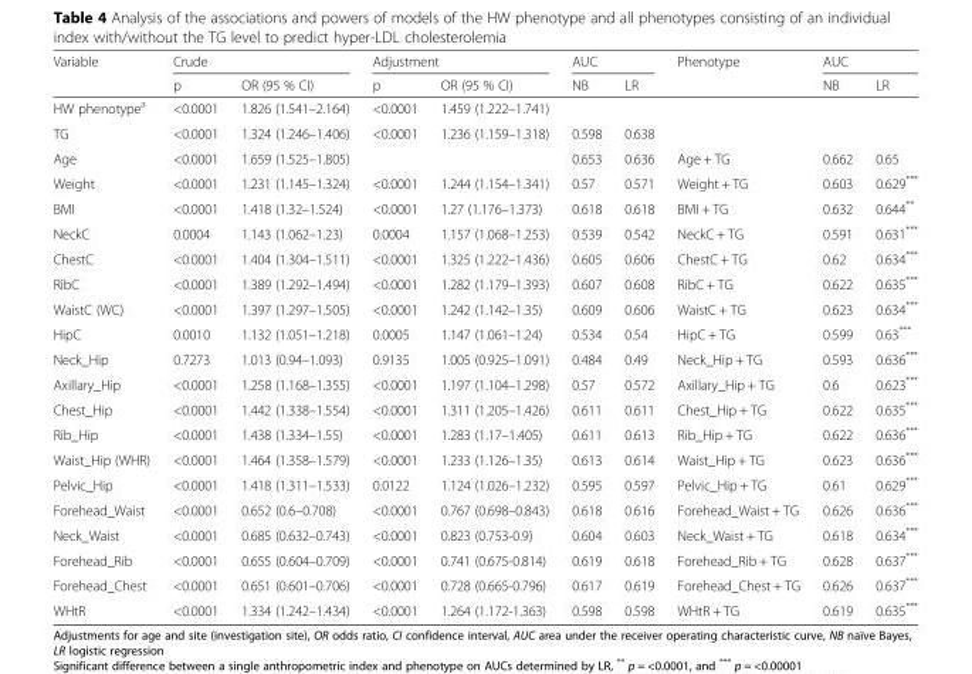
<table><thead><tr><td rowspan="2">Variable</td><td colspan="2">Crude</td><td colspan="2">Adjustment</td><td colspan="2">AUC</td><td rowspan="2">Phenotype</td><td colspan="2">AUC</td></tr><tr><td>p</td><td>OR (95 % CI)</td><td>p</td><td>OR (95 % CI)</td><td>NB</td><td>LR</td><td>NB</td><td>LR</td></tr></thead><tbody><tr><td>HW phenotype<sup>a</sup></td><td>&lt;0.0001</td><td>1.826 (1.541–2.164)</td><td>&lt;0.0001</td><td>1.459 (1.222–1.741)</td><td></td><td></td><td></td><td></td><td></td></tr><tr><td>TG</td><td>&lt;0.0001</td><td>1.324 (1.246–1.406)</td><td>&lt;0.0001</td><td>1.236 (1.159–1.318)</td><td>0.598</td><td>0.638</td><td></td><td></td><td></td></tr><tr><td>Age</td><td>&lt;0.0001</td><td>1.659 (1.525–1.805)</td><td></td><td></td><td>0.653</td><td>0.636</td><td>Age + TG</td><td>0.662</td><td>0.65</td></tr><tr><td>Weight</td><td>&lt;0.0001</td><td>1.231 (1.145–1.324)</td><td>&lt;0.0001</td><td>1.244 (1.154–1.341)</td><td>0.57</td><td>0.571</td><td>Weight + TG</td><td>0.603</td><td>0.629***</td></tr><tr><td>BMI</td><td>&lt;0.0001</td><td>1.418 (1.32–1.524)</td><td>&lt;0.0001</td><td>1.27 (1.176–1.373)</td><td>0.618</td><td>0.618</td><td>BMI + TG</td><td>0.632</td><td>0.644**</td></tr><tr><td>NeckC</td><td>0.0004</td><td>1.143 (1.062–1.23)</td><td>0.0004</td><td>1.157 (1.068–1.253)</td><td>0.539</td><td>0.542</td><td>NeckC + TG</td><td>0.591</td><td>0.631***</td></tr><tr><td>ChestC</td><td>&lt;0.0001</td><td>1.404 (1.304–1.511)</td><td>&lt;0.0001</td><td>1.325 (1.222–1.436)</td><td>0.605</td><td>0.606</td><td>ChestC + TG</td><td>0.62</td><td>0.634***</td></tr><tr><td>RibC</td><td>&lt;0.0001</td><td>1.389 (1.292–1.494)</td><td>&lt;0.0001</td><td>1.282 (1.179–1.393)</td><td>0.607</td><td>0.608</td><td>RibC + TG</td><td>0.622</td><td>0.635***</td></tr><tr><td>WaistC (WC)</td><td>&lt;0.0001</td><td>1.397 (1.297–1.505)</td><td>&lt;0.0001</td><td>1.242 (1.142–1.35)</td><td>0.609</td><td>0.606</td><td>WaistC + TG</td><td>0.623</td><td>0.634***</td></tr><tr><td>HipC</td><td>0.0010</td><td>1.132 (1.051–1.218)</td><td>0.0005</td><td>1.147 (1.061–1.24)</td><td>0.534</td><td>0.54</td><td>HipC + TG</td><td>0.599</td><td>0.63***</td></tr><tr><td>Neck_Hip</td><td>0.7273</td><td>1.013 (0.94–1.093)</td><td>0.9135</td><td>1.005 (0.925–1.091)</td><td>0.484</td><td>0.49</td><td>Neck_Hip + TG</td><td>0.593</td><td>0.636***</td></tr><tr><td>Axillary_Hip</td><td>&lt;0.0001</td><td>1.258 (1.168–1.355)</td><td>&lt;0.0001</td><td>1.197 (1.104–1.298)</td><td>0.57</td><td>0.572</td><td>Axillary_Hip + TG</td><td>0.6</td><td>0.623***</td></tr><tr><td>Chest_Hip</td><td>&lt;0.0001</td><td>1.442 (1.338–1.554)</td><td>&lt;0.0001</td><td>1.311 (1.205–1.426)</td><td>0.611</td><td>0.611</td><td>Chest_Hip + TG</td><td>0.622</td><td>0.635***</td></tr><tr><td>Rib_Hip</td><td>&lt;0.0001</td><td>1.438 (1.334–1.55)</td><td>&lt;0.0001</td><td>1.283 (1.17–1.405)</td><td>0.611</td><td>0.613</td><td>Rib_Hip + TG</td><td>0.622</td><td>0.636***</td></tr><tr><td>Waist_Hip (WHR)</td><td>&lt;0.0001</td><td>1.464 (1.358–1.579)</td><td>&lt;0.0001</td><td>1.233 (1.126–1.35)</td><td>0.613</td><td>0.614</td><td>Waist_Hip + TG</td><td>0.623</td><td>0.636***</td></tr><tr><td>Pelvic_Hip</td><td>&lt;0.0001</td><td>1.418 (1.311–1.533)</td><td>0.0122</td><td>1.124 (1.026–1.232)</td><td>0.595</td><td>0.597</td><td>Pelvic_Hip + TG</td><td>0.61</td><td>0.629***</td></tr><tr><td>Forehead_Waist</td><td>&lt;0.0001</td><td>0.652 (0.6–0.708)</td><td>&lt;0.0001</td><td>0.767 (0.698–0.843)</td><td>0.618</td><td>0.616</td><td>Forehead_Waist + TG</td><td>0.626</td><td>0.636***</td></tr><tr><td>Neck_Waist</td><td>&lt;0.0001</td><td>0.685 (0.632–0.743)</td><td>&lt;0.0001</td><td>0.823 (0.753-0.9)</td><td>0.604</td><td>0.603</td><td>Neck_Waist + TG</td><td>0.618</td><td>0.634***</td></tr><tr><td>Forehead_Rib</td><td>&lt;0.0001</td><td>0.655 (0.604–0.709)</td><td>&lt;0.0001</td><td>0.741 (0.675-0.814)</td><td>0.619</td><td>0.618</td><td>Forehead_Rib + TG</td><td>0.628</td><td>0.637***</td></tr><tr><td>Forehead_Chest</td><td>&lt;0.0001</td><td>0.651 (0.601–0.706)</td><td>&lt;0.0001</td><td>0.728 (0.665-0.796)</td><td>0.617</td><td>0.619</td><td>Forehead_Chest + TG</td><td>0.626</td><td>0.637***</td></tr><tr><td>WHtR</td><td>&lt;0.0001</td><td>1.334 (1.242–1.434)</td><td>&lt;0.0001</td><td>1.264 (1.172-1.363)</td><td>0.598</td><td>0.598</td><td>WHtR + TG</td><td>0.619</td><td>0.635***</td></tr></tbody></table>